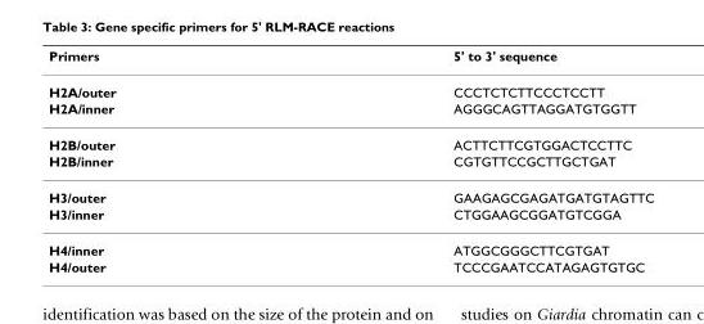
<table><thead><tr><td>Primers</td><td>5&#x27; to 3&#x27; sequence</td></tr></thead><tbody><tr><td>H2A/outer</td><td>CCCTCTCTTCCCTCCTT</td></tr><tr><td>H2A/inner</td><td>AGGGCAGTTAGGATGTGGTT</td></tr><tr><td>H2B/outer</td><td>ACTTCTTCGTGGACTCCTTC</td></tr><tr><td>H2B/inner</td><td>CGTGTTCCGCTTGCTGAT</td></tr><tr><td>H3/outer</td><td>GAAGAGCGAGATGATGTAGTTC</td></tr><tr><td>H3/inner</td><td>CTGGAAGCGGATGTCGGA</td></tr><tr><td>H4/inner</td><td>ATGGCGGGCTTCGTGAT</td></tr><tr><td>H4/outer</td><td>TCCCGAATCCATAGAGTGTGC</td></tr></tbody></table>